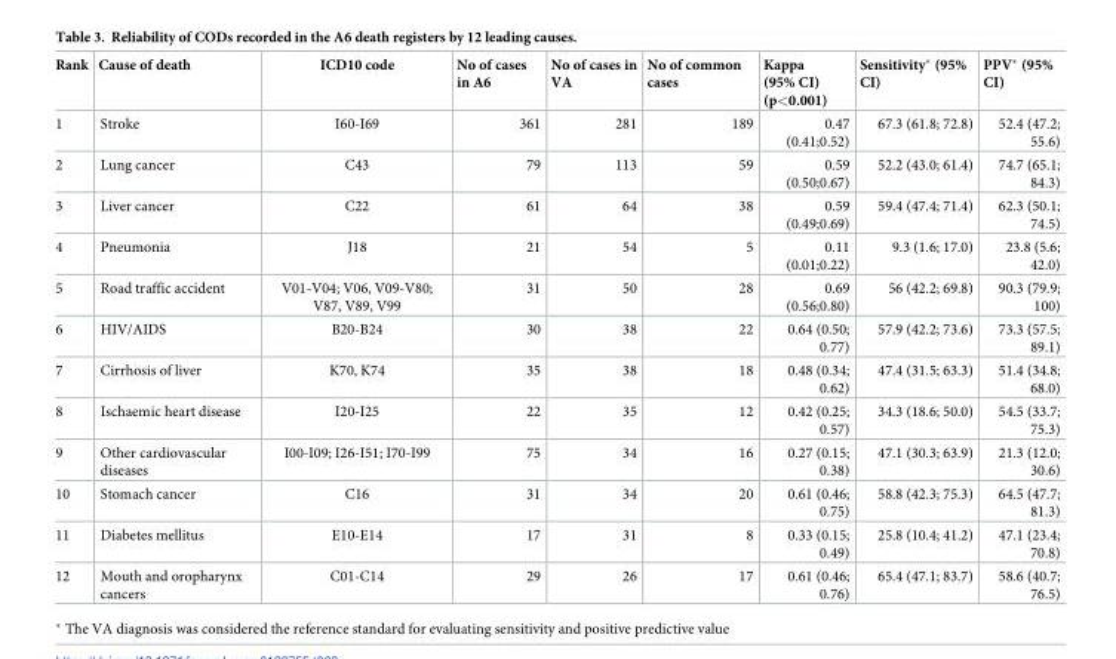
<table><thead><tr><td>Rank</td><td>Cause of death</td><td>ICD10 code</td><td>No of cases in A6</td><td>No of cases in VA</td><td>No of common cases</td><td>Kappa (95% CI) (p&lt;0.001)</td><td>Sensitivity* (95% CI)</td><td>PPV* (95% CI)</td></tr></thead><tbody><tr><td>1</td><td>Stroke</td><td>I60-I69</td><td>361</td><td>281</td><td>189</td><td>0.47 (0.41;0.52)</td><td>67.3 (61.8; 72.8)</td><td>52.4 (47.2; 55.6)</td></tr><tr><td>2</td><td>Lung cancer</td><td>C43</td><td>79</td><td>113</td><td>59</td><td>0.59 (0.50;0.67)</td><td>52.2 (43.0; 61.4)</td><td>74.7 (65.1; 84.3)</td></tr><tr><td>3</td><td>Liver cancer</td><td>C22</td><td>61</td><td>64</td><td>38</td><td>0.59 (0.49;0.69)</td><td>59.4 (47.4; 71.4)</td><td>62.3 (50.1; 74.5)</td></tr><tr><td>4</td><td>Pneumonia</td><td>J18</td><td>21</td><td>54</td><td>5</td><td>0.11 (0.01;0.22)</td><td>9.3 (1.6; 17.0)</td><td>23.8 (5.6; 42.0)</td></tr><tr><td>5</td><td>Road traffic accident</td><td>V01-V04; V06, V09-V80; V87, V89, V99</td><td>31</td><td>50</td><td>28</td><td>0.69 (0.56;0.80)</td><td>56 (42.2; 69.8)</td><td>90.3 (79.9; 100)</td></tr><tr><td>6</td><td>HIV/AIDS</td><td>B20-B24</td><td>30</td><td>38</td><td>22</td><td>0.64 (0.50; 0.77)</td><td>57.9 (42.2; 73.6)</td><td>73.3 (57.5; 89.1)</td></tr><tr><td>7</td><td>Cirrhosis of liver</td><td>K70, K74</td><td>35</td><td>38</td><td>18</td><td>0.48 (0.34; 0.62)</td><td>47.4 (31.5; 63.3)</td><td>51.4 (34.8; 68.0)</td></tr><tr><td>8</td><td>Ischaemic heart disease</td><td>I20-I25</td><td>22</td><td>35</td><td>12</td><td>0.42 (0.25; 0.57)</td><td>34.3 (18.6; 50.0)</td><td>54.5 (33.7; 75.3)</td></tr><tr><td>9</td><td>Other cardiovascular diseases</td><td>I00-I09; I26-I51; I70-I99</td><td>75</td><td>34</td><td>16</td><td>0.27 (0.15; 0.38)</td><td>47.1 (30.3; 63.9)</td><td>21.3 (12.0; 30.6)</td></tr><tr><td>10</td><td>Stomach cancer</td><td>C16</td><td>31</td><td>34</td><td>20</td><td>0.61 (0.46; 0.75)</td><td>58.8 (42.3; 75.3)</td><td>64.5 (47.7; 81.3)</td></tr><tr><td>11</td><td>Diabetes mellitus</td><td>E10-E14</td><td>17</td><td>31</td><td>8</td><td>0.33 (0.15; 0.49)</td><td>25.8 (10.4; 41.2)</td><td>47.1 (23.4; 70.8)</td></tr><tr><td>12</td><td>Mouth and oropharynx cancers</td><td>C01-C14</td><td>29</td><td>26</td><td>17</td><td>0.61 (0.46; 0.76)</td><td>65.4 (47.1; 83.7)</td><td>58.6 (40.7; 76.5)</td></tr></tbody></table>